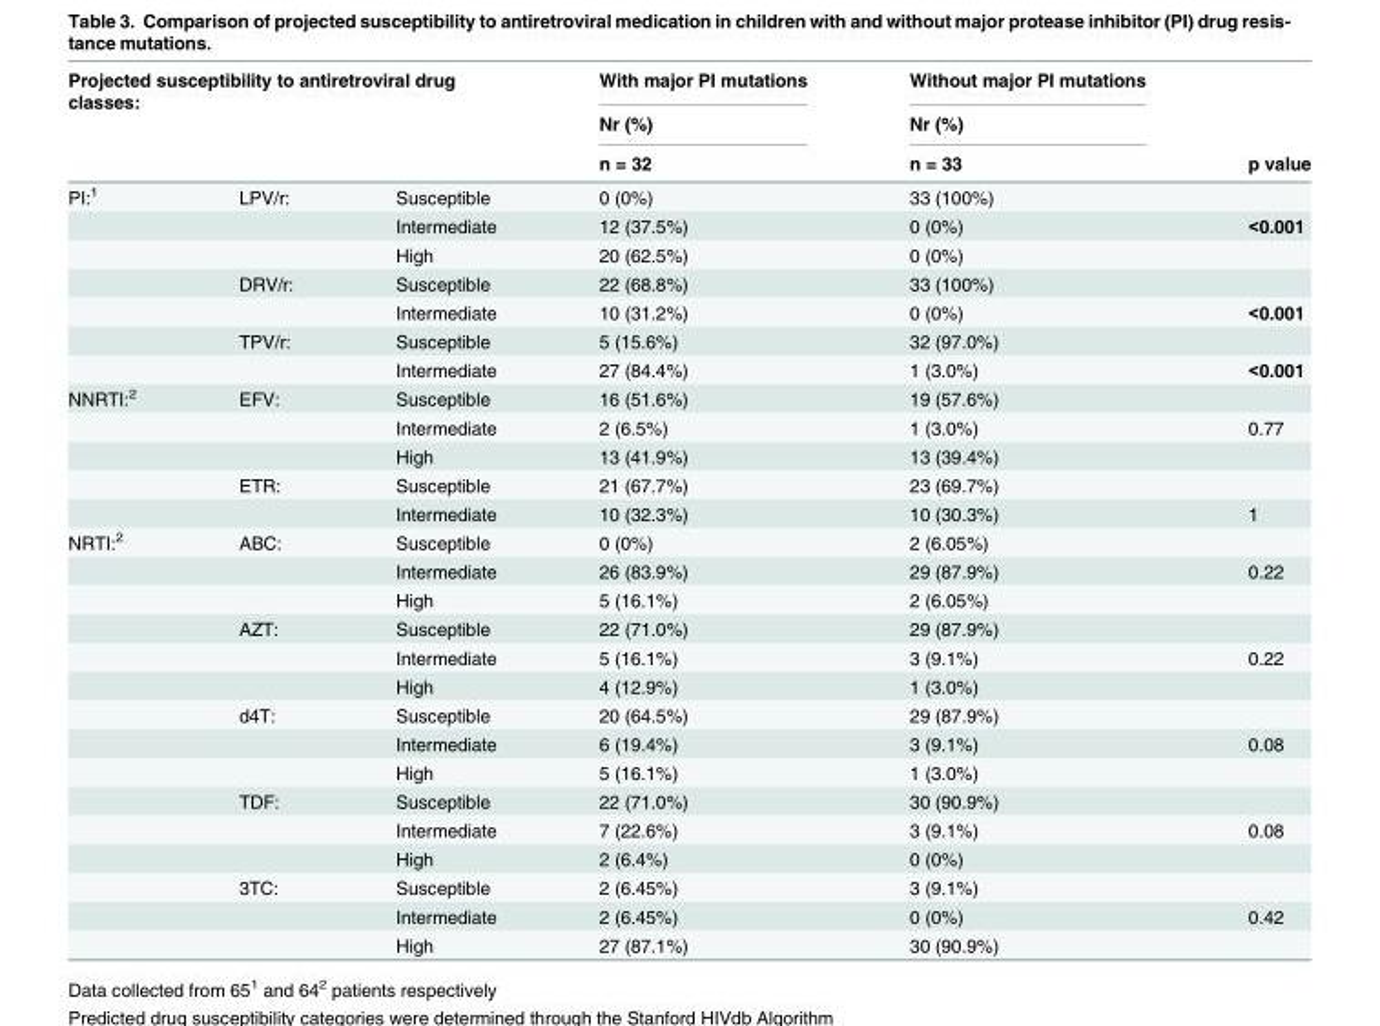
<table><thead><tr><td colspan="3">Projected susceptibility to antiretroviral drug classes:</td><td rowspan="3">With major PI mutations Nr (%) n = 32</td><td rowspan="3">Without major PI mutations Nr (%) n = 33</td><td rowspan="3">p value</td></tr><tr><td rowspan="2"></td><td rowspan="2"></td><td rowspan="2"></td></tr><tr></tr></thead><tbody><tr><td rowspan="7">PI:<sup>1</sup></td><td>LPV/r:</td><td>Susceptible</td><td>0 (0%)</td><td>33 (100%)</td><td></td></tr><tr><td></td><td>Intermediate</td><td>12 (37.5%)</td><td>0 (0%)</td><td>&lt;0.001</td></tr><tr><td></td><td>High</td><td>20 (62.5%)</td><td>0 (0%)</td><td></td></tr><tr><td>DRV/r:</td><td>Susceptible</td><td>22 (68.8%)</td><td>33 (100%)</td><td></td></tr><tr><td></td><td>Intermediate</td><td>10 (31.2%)</td><td>0 (0%)</td><td>&lt;0.001</td></tr><tr><td>TPV/r:</td><td>Susceptible</td><td>5 (15.6%)</td><td>32 (97.0%)</td><td></td></tr><tr><td></td><td>Intermediate</td><td>27 (84.4%)</td><td>1 (3.0%)</td><td>&lt;0.001</td></tr><tr><td rowspan="5">NNRTI:<sup>2</sup></td><td>EFV:</td><td>Susceptible</td><td>16 (51.6%)</td><td>19 (57.6%)</td><td></td></tr><tr><td></td><td>Intermediate</td><td>2 (6.5%)</td><td>1 (3.0%)</td><td>0.77</td></tr><tr><td></td><td>High</td><td>13 (41.9%)</td><td>13 (39.4%)</td><td></td></tr><tr><td>ETR:</td><td>Susceptible</td><td>21 (67.7%)</td><td>23 (69.7%)</td><td></td></tr><tr><td></td><td>Intermediate</td><td>10 (32.3%)</td><td>10 (30.3%)</td><td>1</td></tr><tr><td rowspan="15">NRTI:<sup>2</sup></td><td>ABC:</td><td>Susceptible</td><td>0 (0%)</td><td>2 (6.05%)</td><td></td></tr><tr><td></td><td>Intermediate</td><td>26 (83.9%)</td><td>29 (87.9%)</td><td>0.22</td></tr><tr><td></td><td>High</td><td>5 (16.1%)</td><td>2 (6.05%)</td><td></td></tr><tr><td>AZT:</td><td>Susceptible</td><td>22 (71.0%)</td><td>29 (87.9%)</td><td></td></tr><tr><td></td><td>Intermediate</td><td>5 (16.1%)</td><td>3 (9.1%)</td><td>0.22</td></tr><tr><td></td><td>High</td><td>4 (12.9%)</td><td>1 (3.0%)</td><td></td></tr><tr><td>d4T:</td><td>Susceptible</td><td>20 (64.5%)</td><td>29 (87.9%)</td><td></td></tr><tr><td></td><td>Intermediate</td><td>6 (19.4%)</td><td>3 (9.1%)</td><td>0.08</td></tr><tr><td></td><td>High</td><td>5 (16.1%)</td><td>1 (3.0%)</td><td></td></tr><tr><td>TDF:</td><td>Susceptible</td><td>22 (71.0%)</td><td>30 (90.9%)</td><td></td></tr><tr><td></td><td>Intermediate</td><td>7 (22.6%)</td><td>3 (9.1%)</td><td>0.08</td></tr><tr><td></td><td>High</td><td>2 (6.4%)</td><td>0 (0%)</td><td></td></tr><tr><td>3TC:</td><td>Susceptible</td><td>2 (6.45%)</td><td>3 (9.1%)</td><td></td></tr><tr><td></td><td>Intermediate</td><td>2 (6.45%)</td><td>0 (0%)</td><td>0.42</td></tr><tr><td></td><td>High</td><td>27 (87.1%)</td><td>30 (90.9%)</td><td></td></tr></tbody></table>